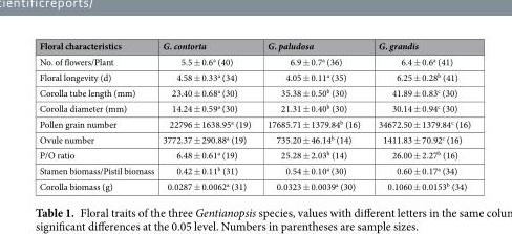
<table><thead><tr><td>Floral characteristics</td><td>G. contorta</td><td>G. paludosa</td><td>G. grandis</td></tr></thead><tbody><tr><td>No. of flowers/Plant</td><td>5.5 ± 0.6<sup>a</sup> (40)</td><td>6.9 ± 0.7<sup>a</sup> (36)</td><td>6.4 ± 0.6<sup>a</sup> (41)</td></tr><tr><td>Floral longevity (d)</td><td>4.58 ± 0.33<sup>a</sup> (34)</td><td>4.05 ± 0.11<sup>a</sup> (35)</td><td>6.25 ± 0.28<sup>b</sup> (41)</td></tr><tr><td>Corolla tube length (mm)</td><td>23.40 ± 0.68<sup>a</sup> (30)</td><td>35.38 ± 0.50<sup>b</sup> (30)</td><td>41.89 ± 0.83<sup>c</sup> (30)</td></tr><tr><td>Corolla diameter (mm)</td><td>14.24 ± 0.59<sup>a</sup> (30)</td><td>21.31 ± 0.40<sup>b</sup> (30)</td><td>30.14 ± 0.94<sup>c</sup> (30)</td></tr><tr><td>Pollen grain number</td><td>22796 ± 1638.95<sup>a</sup> (19)</td><td>17685.71 ± 1379.84<sup>b</sup> (16)</td><td>34672.50 ± 1379.84<sup>c</sup> (16)</td></tr><tr><td>Ovule number</td><td>3772.37 ± 290.88<sup>a</sup> (19)</td><td>735.20 ± 46.14<sup>b</sup> (14)</td><td>1411.83 ± 70.92<sup>c</sup> (16)</td></tr><tr><td>P/O ratio</td><td>6.48 ± 0.61<sup>a</sup> (19)</td><td>25.28 ± 2.03<sup>b</sup> (14)</td><td>26.00 ± 2.27<sup>b</sup> (16)</td></tr><tr><td>Stamen biomass/Pistil biomass</td><td>0.42 ± 0.11<sup>b</sup> (31)</td><td>0.54 ± 0.10<sup>a</sup> (30)</td><td>0.60 ± 0.17<sup>a</sup> (34)</td></tr><tr><td>Corolla biomass (g)</td><td>0.0287 ± 0.0062<sup>a</sup> (31)</td><td>0.0323 ± 0.0039<sup>a</sup> (30)</td><td>0.1060 ± 0.0153<sup>b</sup> (34)</td></tr></tbody></table>